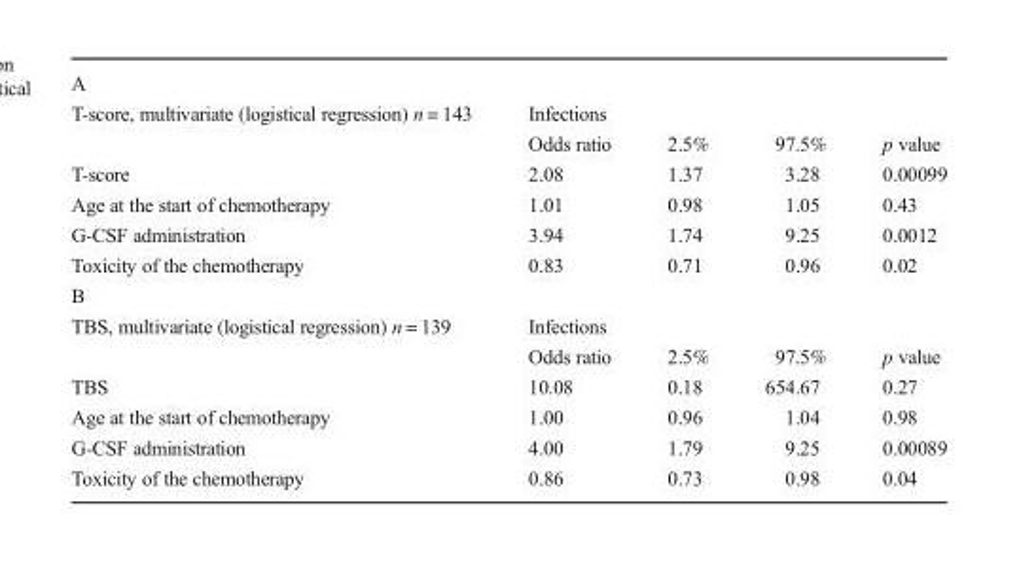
<table><tbody><tr><td colspan="5">A</td></tr><tr><td rowspan="2">T-score, multivariate (logistical regression) n = 143</td><td colspan="4">Infections</td></tr><tr><td>Odds ratio</td><td>2.5%</td><td>97.5%</td><td>p value</td></tr><tr><td>T-score</td><td>2.08</td><td>1.37</td><td>3.28</td><td>0.00099</td></tr><tr><td>Age at the start of chemotherapy</td><td>1.01</td><td>0.98</td><td>1.05</td><td>0.43</td></tr><tr><td>G-CSF administration</td><td>3.94</td><td>1.74</td><td>9.25</td><td>0.0012</td></tr><tr><td>Toxicity of the chemotherapy</td><td>0.83</td><td>0.71</td><td>0.96</td><td>0.02</td></tr><tr><td colspan="5">B</td></tr><tr><td rowspan="2">TBS, multivariate (logistical regression) n = 139</td><td colspan="4">Infections</td></tr><tr><td>Odds ratio</td><td>2.5%</td><td>97.5%</td><td>p value</td></tr><tr><td>TBS</td><td>10.08</td><td>0.18</td><td>654.67</td><td>0.27</td></tr><tr><td>Age at the start of chemotherapy</td><td>1.00</td><td>0.96</td><td>1.04</td><td>0.98</td></tr><tr><td>G-CSF administration</td><td>4.00</td><td>1.79</td><td>9.25</td><td>0.00089</td></tr><tr><td>Toxicity of the chemotherapy</td><td>0.86</td><td>0.73</td><td>0.98</td><td>0.04</td></tr></tbody></table>